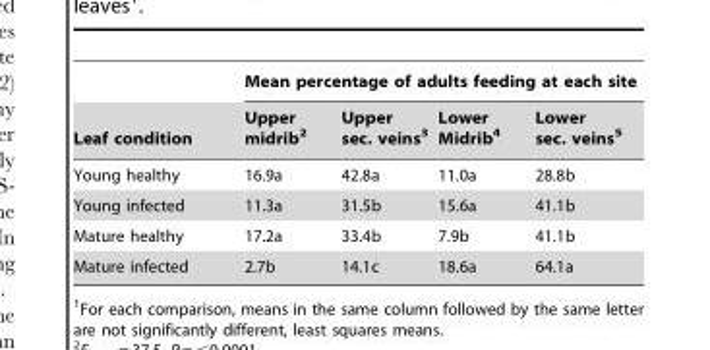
<table><thead><tr><td rowspan="2">Leaf condition</td><td colspan="4">Mean percentage of adults feeding at each site</td></tr><tr><td>Upper midrib<sup>2</sup></td><td>Upper sec. veins<sup>3</sup></td><td>Lower Midrib<sup>4</sup></td><td>Lower sec. veins<sup>5</sup></td></tr></thead><tbody><tr><td>Young healthy</td><td>16.9a</td><td>42.8a</td><td>11.0a</td><td>28.8b</td></tr><tr><td>Young infected</td><td>11.3a</td><td>31.5b</td><td>15.6a</td><td>41.1b</td></tr><tr><td>Mature healthy</td><td>17.2a</td><td>33.4b</td><td>7.9b</td><td>41.1b</td></tr><tr><td>Mature infected</td><td>2.7b</td><td>14.1c</td><td>18.6a</td><td>64.1a</td></tr></tbody></table>